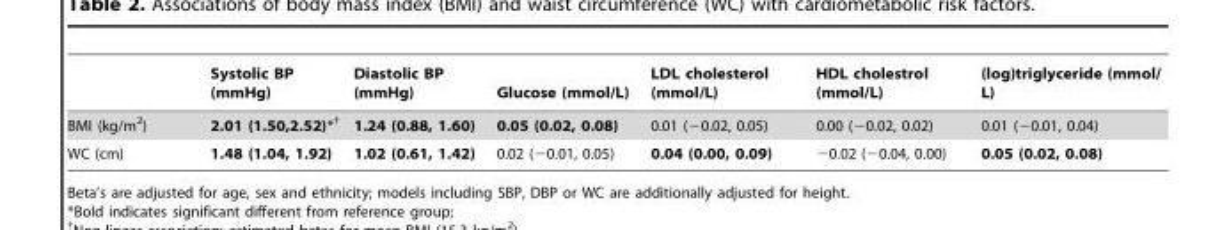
<table><thead><tr><td></td><td>Systolic BP (mmHg)</td><td>Diastolic BP (mmHg)</td><td>Glucose (mmol/L)</td><td>LDL cholesterol (mmol/L)</td><td>HDL cholestrol (mmol/L)</td><td>(log)triglyceride (mmol/ L)</td></tr></thead><tbody><tr><td>BMI (kg/m<sup>2</sup>)</td><td>2.01 (1.50,2.52)*†</td><td>1.24 (0.88, 1.60)</td><td>0.05 (0.02, 0.08)</td><td>0.01 (−0.02, 0.05)</td><td>0.00 (−0.02, 0.02)</td><td>0.01 (−0.01, 0.04)</td></tr><tr><td>WC (cm)</td><td>1.48 (1.04, 1.92)</td><td>1.02 (0.61, 1.42)</td><td>0.02 (−0.01, 0.05)</td><td>0.04 (0.00, 0.09)</td><td>−0.02 (−0.04, 0.00)</td><td>0.05 (0.02, 0.08)</td></tr></tbody></table>